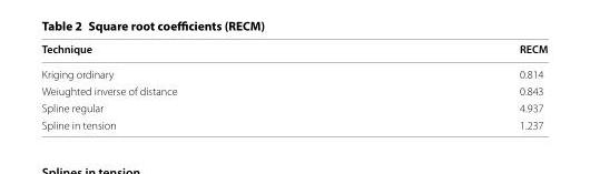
<table><thead><tr><td>Technique</td><td>RECM</td></tr></thead><tbody><tr><td>Kriging ordinary</td><td>0.814</td></tr><tr><td>Weiughted inverse of distance</td><td>0.843</td></tr><tr><td>Spline regular</td><td>4.937</td></tr><tr><td>Spline in tension</td><td>1.237</td></tr></tbody></table>